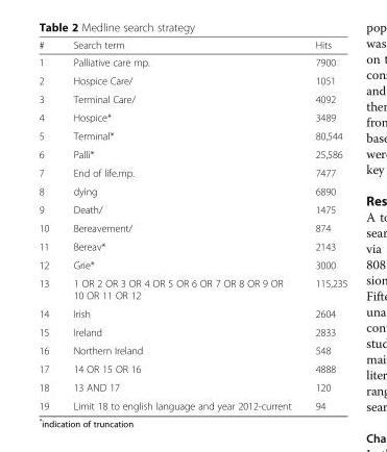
<table><thead><tr><td>#</td><td>Search term</td><td>Hits</td></tr></thead><tbody><tr><td>1</td><td>Palliative care mp.</td><td>7900</td></tr><tr><td>2</td><td>Hospice Care/</td><td>1051</td></tr><tr><td>3</td><td>Terminal Care/</td><td>4092</td></tr><tr><td>4</td><td>Hospice*</td><td>3489</td></tr><tr><td>5</td><td>Terminal*</td><td>80,544</td></tr><tr><td>6</td><td>Palli*</td><td>25,586</td></tr><tr><td>7</td><td>End of life.mp.</td><td>7477</td></tr><tr><td>8</td><td>dying</td><td>6890</td></tr><tr><td>9</td><td>Death/</td><td>1475</td></tr><tr><td>10</td><td>Bereavement/</td><td>874</td></tr><tr><td>11</td><td>Bereav*</td><td>2143</td></tr><tr><td>12</td><td>Grie*</td><td>3000</td></tr><tr><td>13</td><td>1 OR 2 OR 3 OR 4 OR 5 OR 6 OR 7 OR 8 OR 9 OR 10 OR 11 OR 12</td><td>115,235</td></tr><tr><td>14</td><td>Irish</td><td>2604</td></tr><tr><td>15</td><td>Ireland</td><td>2833</td></tr><tr><td>16</td><td>Northern Ireland</td><td>548</td></tr><tr><td>17</td><td>14 OR 15 OR 16</td><td>4888</td></tr><tr><td>18</td><td>13 AND 17</td><td>120</td></tr><tr><td>19</td><td>Limit 18 to english language and year 2012-current</td><td>94</td></tr></tbody></table>